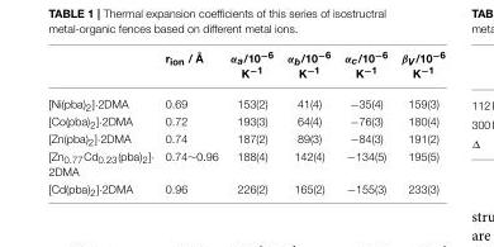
<table><thead><tr><td></td><td>r<sub>ion</sub> / Å</td><td>αa/10−6 K−1</td><td>αb/10−6 K−1</td><td>αc/10−6 K−1</td><td>βV/10−6 K−1</td></tr></thead><tbody><tr><td>[Ni(pba)<sub>2</sub>]·2DMA</td><td>0.69</td><td>153(2)</td><td>41(4)</td><td>−35(4)</td><td>159(3)</td></tr><tr><td>[Co(pba)<sub>2</sub>]·2DMA</td><td>0.72</td><td>193(3)</td><td>64(4)</td><td>−76(3)</td><td>180(4)</td></tr><tr><td>[Zn(pba)<sub>2</sub>]·2DMA</td><td>0.74</td><td>187(2)</td><td>89(3)</td><td>−84(3)</td><td>191(2)</td></tr><tr><td>[Zn<sub>0.77</sub>Cd<sub>0.23</sub>(pba)<sub>2</sub>]· 2DMA</td><td>0.74∼0.96</td><td>188(4)</td><td>142(4)</td><td>−134(5)</td><td>195(5)</td></tr><tr><td>[Cd(pba)<sub>2</sub>]·2DMA</td><td>0.96</td><td>226(2)</td><td>165(2)</td><td>−155(3)</td><td>233(3)</td></tr></tbody></table>